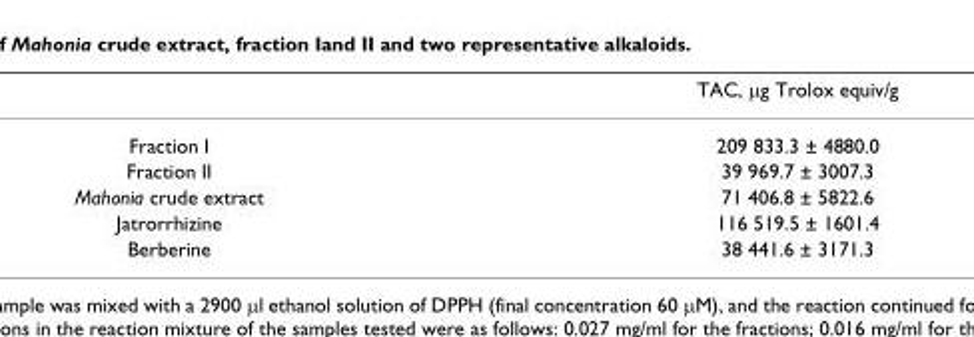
<table><thead><tr><td></td><td>TAC, μg Trolox equiv/g</td></tr></thead><tbody><tr><td>Fraction I</td><td>209 833.3 ± 4880.0</td></tr><tr><td>Fraction II</td><td>39 969.7 ± 3007.3</td></tr><tr><td>Mahonia crude extract</td><td>71 406.8 ± 5822.6</td></tr><tr><td>Jatrorrhizine</td><td>116 519.5 ± 1601.4</td></tr><tr><td>Berberine</td><td>38 441.6 ± 3171.3</td></tr></tbody></table>